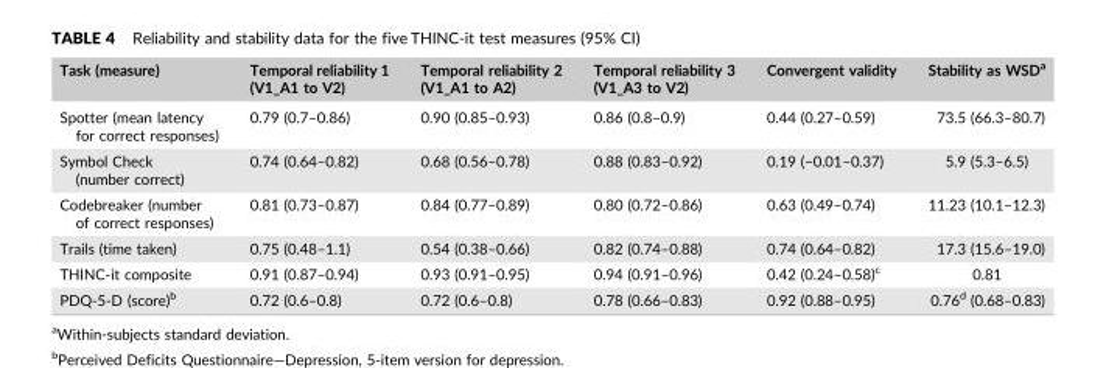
<table><thead><tr><td>Task (measure)</td><td>Temporal reliability 1 (V1_A1 to V2)</td><td>Temporal reliability 2 (V1_A1 to A2)</td><td>Temporal reliability 3 (V1_A3 to V2)</td><td>Convergent validity</td><td>Stability as WSD<sup>a</sup></td></tr></thead><tbody><tr><td>Spotter (mean latency for correct responses)</td><td>0.79 (0.7–0.86)</td><td>0.90 (0.85–0.93)</td><td>0.86 (0.8–0.9)</td><td>0.44 (0.27–0.59)</td><td>73.5 (66.3–80.7)</td></tr><tr><td>Symbol Check (number correct)</td><td>0.74 (0.64–0.82)</td><td>0.68 (0.56–0.78)</td><td>0.88 (0.83–0.92)</td><td>0.19 (−0.01–0.37)</td><td>5.9 (5.3–6.5)</td></tr><tr><td>Codebreaker (number of correct responses)</td><td>0.81 (0.73–0.87)</td><td>0.84 (0.77–0.89)</td><td>0.80 (0.72–0.86)</td><td>0.63 (0.49–0.74)</td><td>11.23 (10.1–12.3)</td></tr><tr><td>Trails (time taken)</td><td>0.75 (0.48–1.1)</td><td>0.54 (0.38–0.66)</td><td>0.82 (0.74–0.88)</td><td>0.74 (0.64–0.82)</td><td>17.3 (15.6–19.0)</td></tr><tr><td>THINC‐it composite</td><td>0.91 (0.87–0.94)</td><td>0.93 (0.91–0.95)</td><td>0.94 (0.91–0.96)</td><td>0.42 (0.24–0.58)<sup>c</sup></td><td>0.81</td></tr><tr><td>PDQ‐5‐D (score)<sup>b</sup></td><td>0.72 (0.6–0.8)</td><td>0.72 (0.6–0.8)</td><td>0.78 (0.66–0.83)</td><td>0.92 (0.88–0.95)</td><td>0.76<sup>d</sup> (0.68–0.83)</td></tr></tbody></table>